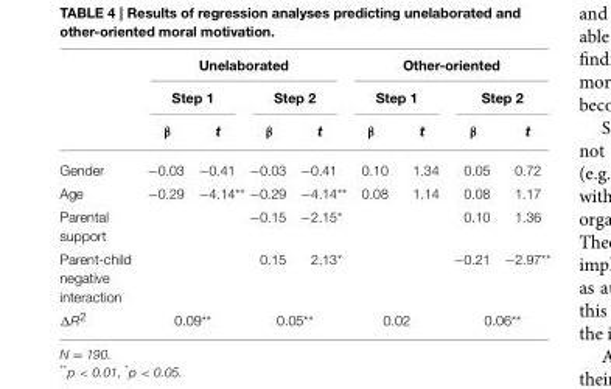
<table><thead><tr><td rowspan="3"></td><td colspan="4">Unelaborated</td><td colspan="4">Other-oriented</td></tr><tr><td colspan="2">Step 1</td><td colspan="2">Step 2</td><td colspan="2">Step 1</td><td colspan="2">Step 2</td></tr><tr><td>β</td><td>t</td><td>β</td><td>t</td><td>β</td><td>t</td><td>β</td><td>t</td></tr></thead><tbody><tr><td>Gender</td><td>−0.03</td><td>−0.41</td><td>−0.03</td><td>−0.41</td><td>0.10</td><td>1.34</td><td>0.05</td><td>0.72</td></tr><tr><td>Age</td><td>−0.29</td><td>−4.14**</td><td>−0.29</td><td>−4.14**</td><td>0.08</td><td>1.14</td><td>0.08</td><td>1.17</td></tr><tr><td>Parental support</td><td></td><td></td><td>−0.15</td><td>−2.15*</td><td></td><td></td><td>0.10</td><td>1.36</td></tr><tr><td>Parent-child negative interaction</td><td></td><td></td><td>0.15</td><td>2.13*</td><td></td><td></td><td>−0.21</td><td>−2.97**</td></tr><tr><td>ΔR<sup>2</sup></td><td colspan="2">0.09**</td><td colspan="2">0.05**</td><td colspan="2">0.02</td><td colspan="2">0.06**</td></tr></tbody></table>